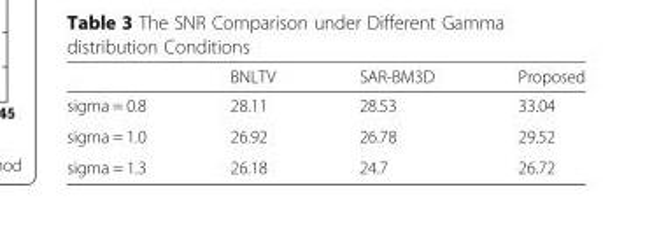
<table><thead><tr><td></td><td>BNLTV</td><td>SAR-BM3D</td><td>Proposed</td></tr></thead><tbody><tr><td>sigma = 0.8</td><td>28.11</td><td>28.53</td><td>33.04</td></tr><tr><td>sigma = 1.0</td><td>26.92</td><td>26.78</td><td>29.52</td></tr><tr><td>sigma = 1.3</td><td>26.18</td><td>24.7</td><td>26.72</td></tr></tbody></table>